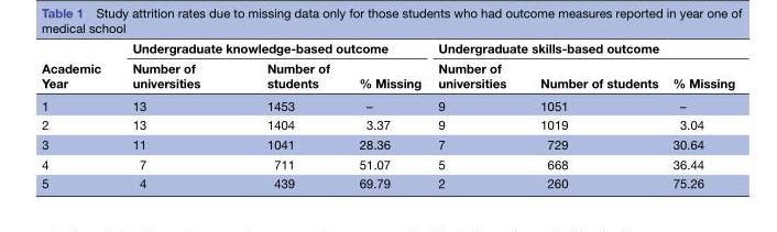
<table><thead><tr><td rowspan="2">Academic Year</td><td colspan="3">Undergraduate knowledge-based outcome</td><td colspan="3">Undergraduate skills-based outcome</td></tr><tr><td>Number of universities</td><td>Number of students</td><td>% Missing</td><td>Number of universities</td><td>Number of students</td><td>% Missing</td></tr></thead><tbody><tr><td>1</td><td>13</td><td>1453</td><td>–</td><td>9</td><td>1051</td><td>–</td></tr><tr><td>2</td><td>13</td><td>1404</td><td>3.37</td><td>9</td><td>1019</td><td>3.04</td></tr><tr><td>3</td><td>11</td><td>1041</td><td>28.36</td><td>7</td><td>729</td><td>30.64</td></tr><tr><td>4</td><td>7</td><td>711</td><td>51.07</td><td>5</td><td>668</td><td>36.44</td></tr><tr><td>5</td><td>4</td><td>439</td><td>69.79</td><td>2</td><td>260</td><td>75.26</td></tr></tbody></table>